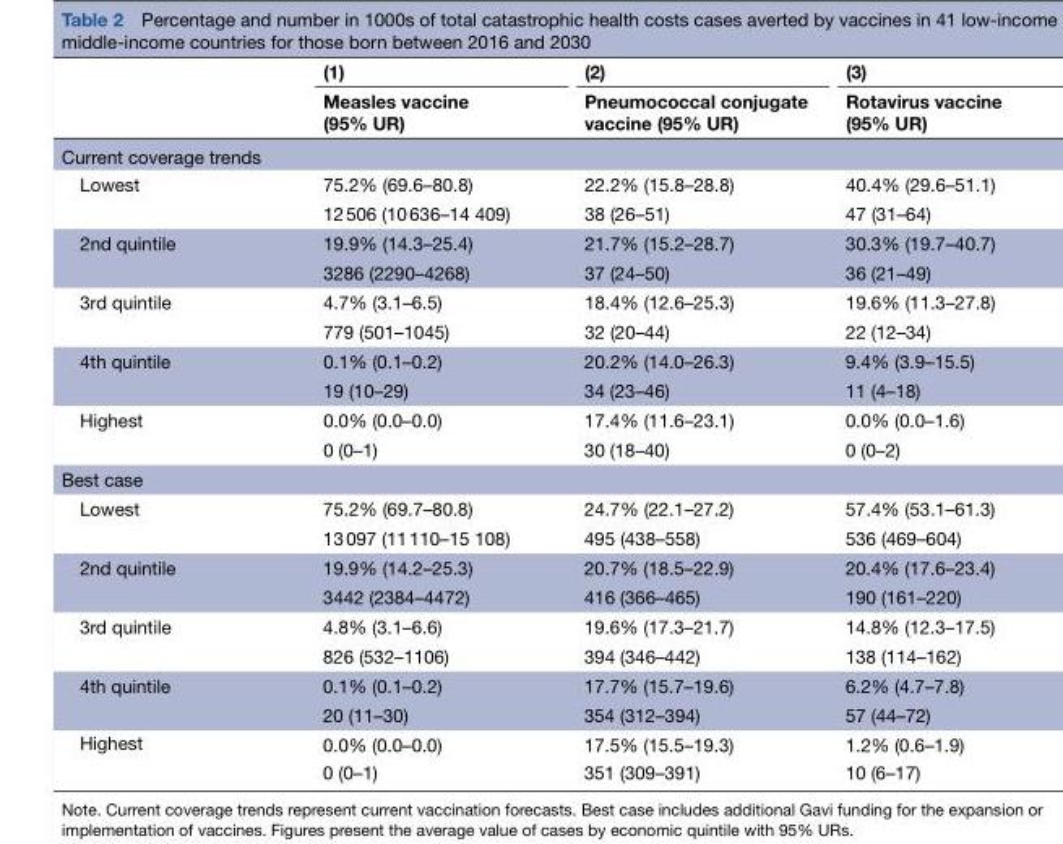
<table><thead><tr><td rowspan="2"></td><td rowspan="2">(1) Measles vaccine (95% UR)</td><td rowspan="2">(2) Pneumococcal conjugate vaccine (95% UR)</td><td rowspan="2">(3) Rotavirus vaccine (95% UR)</td></tr><tr></tr></thead><tbody><tr><td colspan="4">Current coverage trends</td></tr><tr><td rowspan="2">Lowest</td><td>75.2% (69.6–80.8)</td><td>22.2% (15.8–28.8)</td><td>40.4% (29.6–51.1)</td></tr><tr><td>12 506 (10 636–14 409)</td><td>38 (26–51)</td><td>47 (31–64)</td></tr><tr><td rowspan="2">2nd quintile</td><td>19.9% (14.3–25.4)</td><td>21.7% (15.2–28.7)</td><td>30.3% (19.7–40.7)</td></tr><tr><td>3286 (2290–4268)</td><td>37 (24–50)</td><td>36 (21–49)</td></tr><tr><td rowspan="2">3rd quintile</td><td>4.7% (3.1–6.5)</td><td>18.4% (12.6–25.3)</td><td>19.6% (11.3–27.8)</td></tr><tr><td>779 (501–1045)</td><td>32 (20–44)</td><td>22 (12–34)</td></tr><tr><td rowspan="2">4th quintile</td><td>0.1% (0.1–0.2)</td><td>20.2% (14.0–26.3)</td><td>9.4% (3.9–15.5)</td></tr><tr><td>19 (10–29)</td><td>34 (23–46)</td><td>11 (4–18)</td></tr><tr><td rowspan="2">Highest</td><td>0.0% (0.0–0.0)</td><td>17.4% (11.6–23.1)</td><td>0.0% (0.0–1.6)</td></tr><tr><td>0 (0–1)</td><td>30 (18–40)</td><td>0 (0–2)</td></tr><tr><td colspan="4">Best case</td></tr><tr><td rowspan="2">Lowest</td><td>75.2% (69.7–80.8)</td><td>24.7% (22.1–27.2)</td><td>57.4% (53.1–61.3)</td></tr><tr><td>13 097 (11 110–15 108)</td><td>495 (438–558)</td><td>536 (469–604)</td></tr><tr><td rowspan="2">2nd quintile</td><td>19.9% (14.2–25.3)</td><td>20.7% (18.5–22.9)</td><td>20.4% (17.6–23.4)</td></tr><tr><td>3442 (2384–4472)</td><td>416 (366–465)</td><td>190 (161–220)</td></tr><tr><td rowspan="2">3rd quintile</td><td>4.8% (3.1–6.6)</td><td>19.6% (17.3–21.7)</td><td>14.8% (12.3–17.5)</td></tr><tr><td>826 (532–1106)</td><td>394 (346–442)</td><td>138 (114–162)</td></tr><tr><td rowspan="2">4th quintile</td><td>0.1% (0.1–0.2)</td><td>17.7% (15.7–19.6)</td><td>6.2% (4.7–7.8)</td></tr><tr><td>20 (11–30)</td><td>354 (312–394)</td><td>57 (44–72)</td></tr><tr><td rowspan="2">Highest</td><td>0.0% (0.0–0.0)</td><td>17.5% (15.5–19.3)</td><td>1.2% (0.6–1.9)</td></tr><tr><td>0 (0–1)</td><td>351 (309–391)</td><td>10 (6–17)</td></tr></tbody></table>